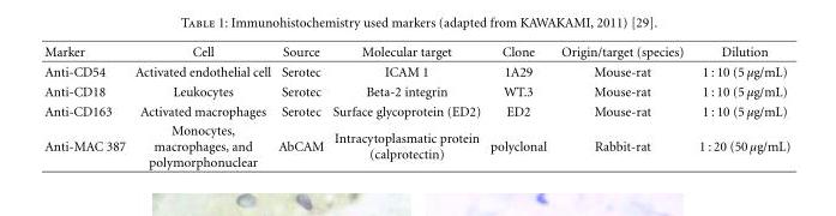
<table><thead><tr><td>Marker</td><td>Cell</td><td>Source</td><td>Molecular target</td><td>Clone</td><td>Origin/target (species)</td><td>Dilution</td></tr></thead><tbody><tr><td>Anti-CD54</td><td>Activated endothelial cell</td><td>Serotec</td><td>ICAM 1</td><td>1A29</td><td>Mouse-rat</td><td>1 : 10 (5 μg/mL)</td></tr><tr><td>Anti-CD18</td><td>Leukocytes</td><td>Serotec</td><td>Beta-2 integrin</td><td>WT.3</td><td>Mouse-rat</td><td>1 : 10 (5 μg/mL)</td></tr><tr><td>Anti-CD163</td><td>Activated macrophages</td><td>Serotec</td><td>Surface glycoprotein (ED2)</td><td>ED2</td><td>Mouse-rat</td><td>1 : 10 (5 μg/mL)</td></tr><tr><td>Anti-MAC 387</td><td>Monocytes, macrophages, and polymorphonuclear</td><td>AbCAM</td><td>Intracytoplasmatic protein (calprotectin)</td><td>polyclonal</td><td>Rabbit-rat</td><td>1 : 20 (50 μg/mL)</td></tr></tbody></table>